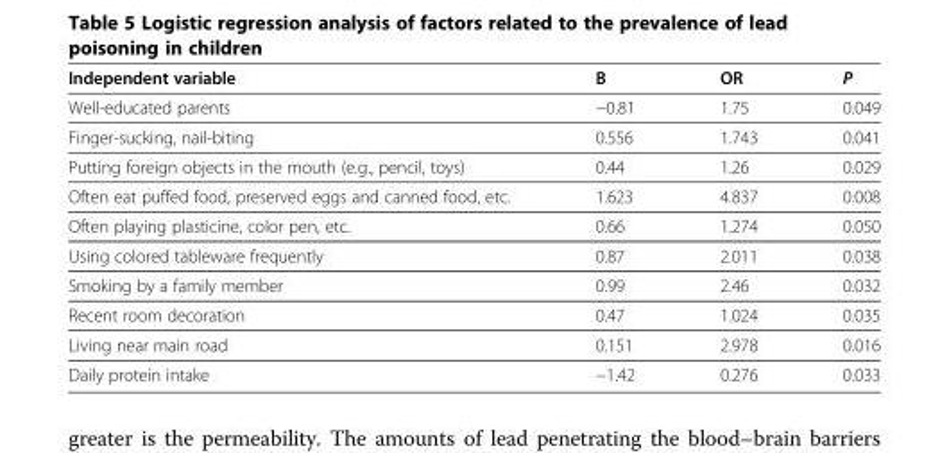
<table><thead><tr><td>Independent variable</td><td>B</td><td>OR</td><td>P</td></tr></thead><tbody><tr><td>Well-educated parents</td><td>−0.81</td><td>1.75</td><td>0.049</td></tr><tr><td>Finger-sucking, nail-biting</td><td>0.556</td><td>1.743</td><td>0.041</td></tr><tr><td>Putting foreign objects in the mouth (e.g., pencil, toys)</td><td>0.44</td><td>1.26</td><td>0.029</td></tr><tr><td>Often eat puffed food, preserved eggs and canned food, etc.</td><td>1.623</td><td>4.837</td><td>0.008</td></tr><tr><td>Often playing plasticine, color pen, etc.</td><td>0.66</td><td>1.274</td><td>0.050</td></tr><tr><td>Using colored tableware frequently</td><td>0.87</td><td>2.011</td><td>0.038</td></tr><tr><td>Smoking by a family member</td><td>0.99</td><td>2.46</td><td>0.032</td></tr><tr><td>Recent room decoration</td><td>0.47</td><td>1.024</td><td>0.035</td></tr><tr><td>Living near main road</td><td>0.151</td><td>2.978</td><td>0.016</td></tr><tr><td>Daily protein intake</td><td>−1.42</td><td>0.276</td><td>0.033</td></tr></tbody></table>